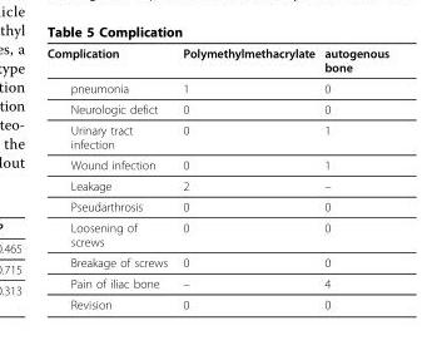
<table><thead><tr><td>Complication</td><td>Polymethylmethacrylate</td><td>autogenous bone</td></tr></thead><tbody><tr><td>pneumonia</td><td>1</td><td>0</td></tr><tr><td>Neurologic defict</td><td>0</td><td>0</td></tr><tr><td>Urinary tract infection</td><td>0</td><td>1</td></tr><tr><td>Wound infection</td><td>0</td><td>1</td></tr><tr><td>Leakage</td><td>2</td><td>–</td></tr><tr><td>Pseudarthrosis</td><td>0</td><td>0</td></tr><tr><td>Loosening of screws</td><td>0</td><td>0</td></tr><tr><td>Breakage of screws</td><td>0</td><td>0</td></tr><tr><td>Pain of iliac bone</td><td>–</td><td>4</td></tr><tr><td>Revision</td><td>0</td><td>0</td></tr></tbody></table>